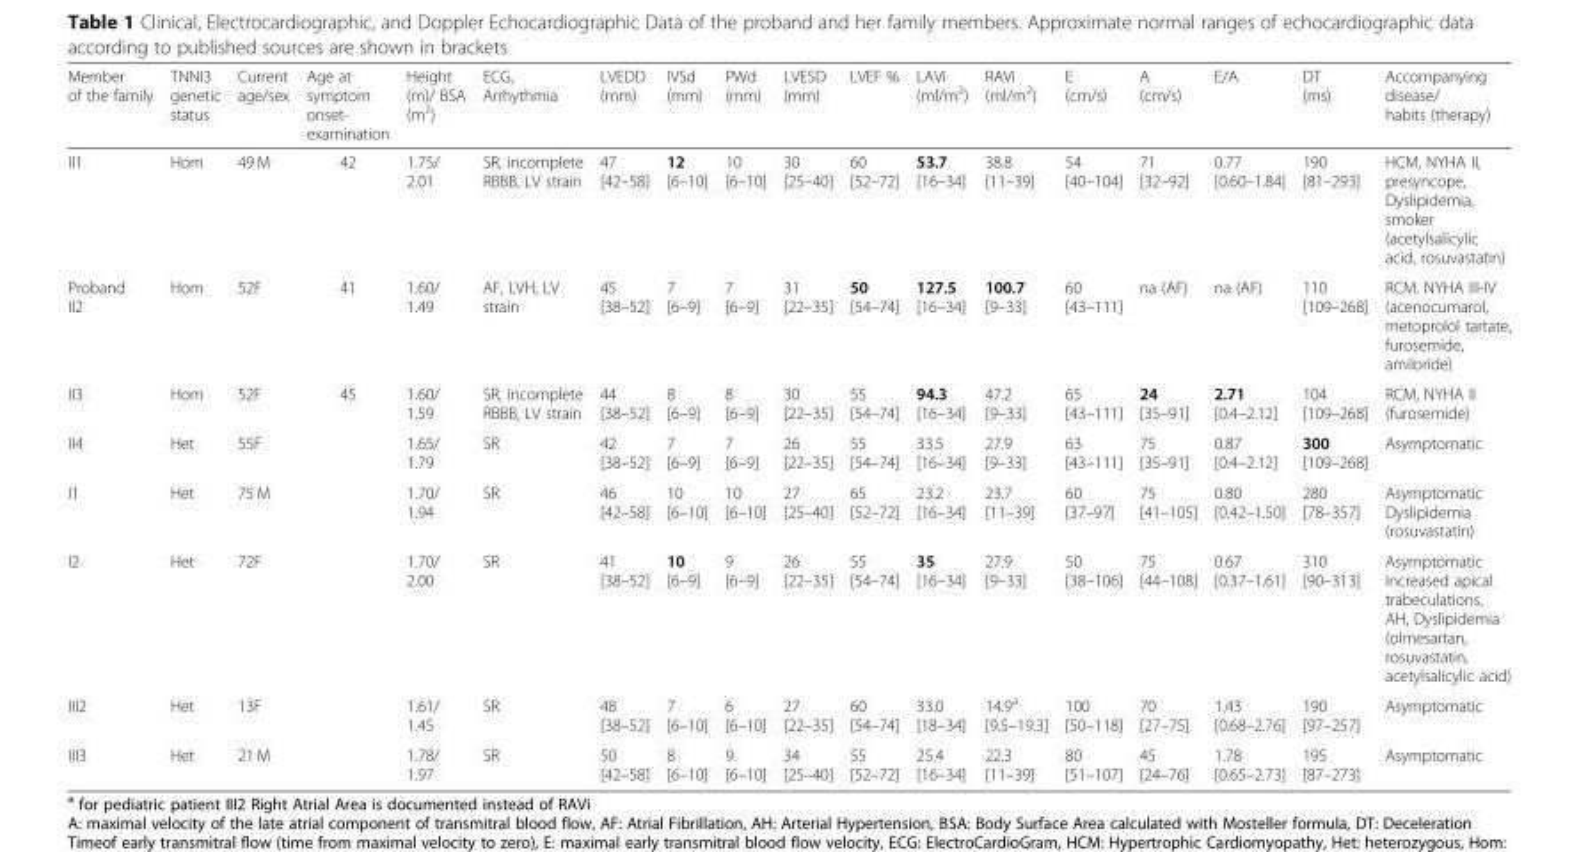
<table><thead><tr><td>Member of the family</td><td>TNNI3 genetic status</td><td>Current age/sex</td><td>Age at symptom onset- examination</td><td>Height (m)/ BSA (m<sup>2</sup>)</td><td>ECG, Arrhythmia</td><td>LVEDD (mm)</td><td>IVSd (mm)</td><td>PWd (mm)</td><td>LVESD (mm)</td><td>LVEF %</td><td>LAVi (ml/m<sup>2</sup>)</td><td>RAVi (ml/m<sup>2</sup>)</td><td>E (cm/s)</td><td>A (cm/s)</td><td>E/A</td><td>DT (ms)</td><td>Accompanying disease/ habits (therapy)</td></tr></thead><tbody><tr><td>II1</td><td>Hom</td><td>49 M</td><td>42</td><td>1.75/ 2.01</td><td>SR, incomplete RBBB, LV strain</td><td>47 [42–58]</td><td>12 [6–10]</td><td>10 [6–10]</td><td>30 [25–40]</td><td>60 [52–72]</td><td>53.7 [16–34]</td><td>38.8 [11–39]</td><td>54 [40–104]</td><td>71 [32–92]</td><td>0.77 [0.60–1.84]</td><td>190 [81–293]</td><td>HCM, NYHA II, presyncope, Dyslipidemia, smoker (acetylsalicylic acid, rosuvastatin)</td></tr><tr><td>Proband II2</td><td>Hom</td><td>52F</td><td>41</td><td>1.60/ 1.49</td><td>AF, LVH, LV strain</td><td>45 [38–52]</td><td>7 [6–9]</td><td>7 [6–9]</td><td>31 [22–35]</td><td>50 [54–74]</td><td>127.5 [16–34]</td><td>100.7 [9–33]</td><td>60 [43–111]</td><td>na (AF)</td><td>na (AF)</td><td>110 [109–268]</td><td>RCM, NYHA III-IV (acenocumarol, metoprolol tartate, furosemide, amiloride)</td></tr><tr><td>II3</td><td>Hom</td><td>52F</td><td>45</td><td>1.60/ 1.59</td><td>SR, incomplete RBBB, LV strain</td><td>44 [38–52]</td><td>8 [6–9]</td><td>8 [6–9]</td><td>30 [22–35]</td><td>55 [54–74]</td><td>94.3 [16–34]</td><td>47.2 [9–33]</td><td>65 [43–111]</td><td>24 [35–91]</td><td>2.71 [0.4–2.12]</td><td>104 [109–268]</td><td>RCM, NYHA II (furosemide)</td></tr><tr><td>II4</td><td>Het</td><td>55F</td><td></td><td>1.65/ 1.79</td><td>SR</td><td>42 [38–52]</td><td>7 [6–9]</td><td>7 [6–9]</td><td>26 [22–35]</td><td>55 [54–74]</td><td>33.5 [16–34]</td><td>27.9 [9–33]</td><td>63 [43–111]</td><td>75 [35–91]</td><td>0.87 [0.4–2.12]</td><td>300 [109–268]</td><td>Asymptomatic</td></tr><tr><td>I1</td><td>Het</td><td>75 M</td><td></td><td>1.70/ 1.94</td><td>SR</td><td>46 [42–58]</td><td>10 [6–10]</td><td>10 [6–10]</td><td>27 [25–40]</td><td>65 [52–72]</td><td>23.2 [16–34]</td><td>23.7 [11–39]</td><td>60 [37–97]</td><td>75 [41–105]</td><td>0.80 [0.42–1.50]</td><td>280 [78–357]</td><td>Asymptomatic Dyslipidemia (rosuvastatin)</td></tr><tr><td>I2</td><td>Het</td><td>72F</td><td></td><td>1.70/ 2.00</td><td>SR</td><td>41 [38–52]</td><td>10 [6–9]</td><td>9 [6–9]</td><td>26 [22–35]</td><td>55 [54–74]</td><td>35 [16–34]</td><td>27.9 [9–33]</td><td>50 [38–106]</td><td>75 [44–108]</td><td>0.67 [0.37–1.61]</td><td>310 [90–313]</td><td>Asymptomatic Increased apical trabeculations, AH, Dyslipidemia (olmesartan, rosuvastatin, acetylsalicylic acid)</td></tr><tr><td>III2</td><td>Het</td><td>13F</td><td></td><td>1.61/ 1.45</td><td>SR</td><td>48 [38–52]</td><td>7 [6–10]</td><td>6 [6–10]</td><td>27 [22–35]</td><td>60 [54–74]</td><td>33.0 [18–34]</td><td>14.9<sup>a</sup> [9.5–19.3]</td><td>100 [50–118]</td><td>70 [27–75]</td><td>1.43 [0.68–2.76]</td><td>190 [97–257]</td><td>Asymptomatic</td></tr><tr><td>III3</td><td>Het</td><td>21 M</td><td></td><td>1.78/ 1.97</td><td>SR</td><td>50 [42–58]</td><td>8 [6–10]</td><td>9 [6–10]</td><td>34 [25–40]</td><td>55 [52–72]</td><td>25.4 [16–34]</td><td>22.3 [11–39]</td><td>80 [51–107]</td><td>45 [24–76]</td><td>1.78 [0.65–2.73]</td><td>195 [87–273]</td><td>Asymptomatic</td></tr></tbody></table>